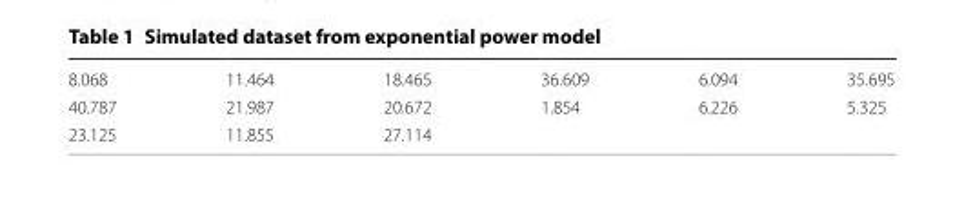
<table><tbody><tr><td>8.068</td><td>11.464</td><td>18.465</td><td>36.609</td><td>6.094</td><td>35.695</td></tr><tr><td>40.787</td><td>21.987</td><td>20.672</td><td>1.854</td><td>6.226</td><td>5.325</td></tr><tr><td>23.125</td><td>11.855</td><td>27.114</td><td></td><td></td><td></td></tr></tbody></table>